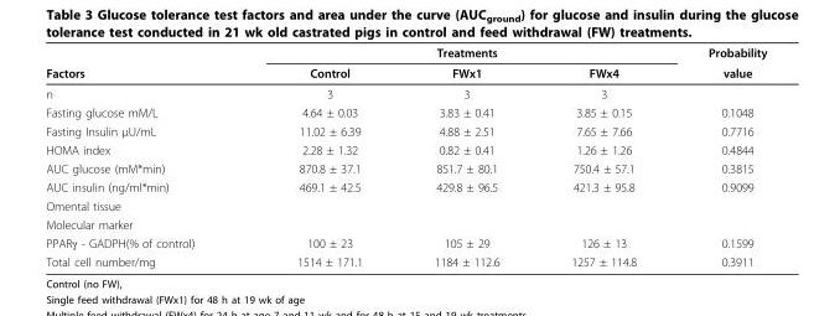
<table><thead><tr><td rowspan="2">Factors</td><td rowspan="2">Control</td><td rowspan="2">Treatments FWx1</td><td rowspan="2">FWx4</td><td rowspan="2">Probability value</td></tr><tr></tr></thead><tbody><tr><td>n</td><td>3</td><td>3</td><td>3</td><td></td></tr><tr><td>Fasting glucose mM/L</td><td>4.64 ± 0.03</td><td>3.83 ± 0.41</td><td>3.85 ± 0.15</td><td>0.1048</td></tr><tr><td>Fasting Insulin μU/mL</td><td>11.02 ± 6.39</td><td>4.88 ± 2.51</td><td>7.65 ± 7.66</td><td>0.7716</td></tr><tr><td>HOMA index</td><td>2.28 ± 1.32</td><td>0.82 ± 0.41</td><td>1.26 ± 1.26</td><td>0.4844</td></tr><tr><td>AUC glucose (mM*min)</td><td>870.8 ± 37.1</td><td>851.7 ± 80.1</td><td>750.4 ± 57.1</td><td>0.3815</td></tr><tr><td>AUC insulin (ng/ml*min)</td><td>469.1 ± 42.5</td><td>429.8 ± 96.5</td><td>421.3 ± 95.8</td><td>0.9099</td></tr><tr><td colspan="5">Omental tissue</td></tr><tr><td colspan="5">Molecular marker</td></tr><tr><td>PPARγ - GADPH(% of control)</td><td>100 ± 23</td><td>105 ± 29</td><td>126 ± 13</td><td>0.1599</td></tr><tr><td>Total cell number/mg</td><td>1514 ± 171.1</td><td>1184 ± 112.6</td><td>1257 ± 114.8</td><td>0.3911</td></tr></tbody></table>